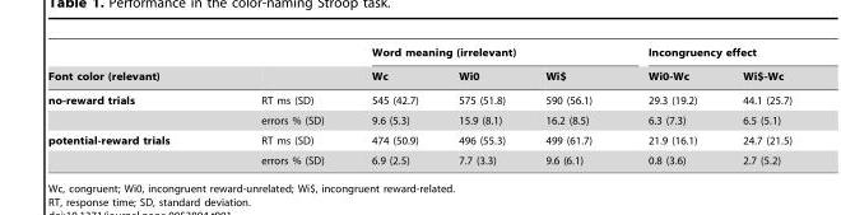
<table><thead><tr><td rowspan="2">Font color (relevant)</td><td rowspan="2"></td><td colspan="3">Word meaning (irrelevant)</td><td colspan="2">Incongruency effect</td></tr><tr><td>Wc</td><td>Wi0</td><td>Wi$</td><td>Wi0-Wc</td><td>Wi$-Wc</td></tr></thead><tbody><tr><td rowspan="2">no-reward trials</td><td>RT ms (SD)</td><td>545 (42.7)</td><td>575 (51.8)</td><td>590 (56.1)</td><td>29.3 (19.2)</td><td>44.1 (25.7)</td></tr><tr><td>errors % (SD)</td><td>9.6 (5.3)</td><td>15.9 (8.1)</td><td>16.2 (8.5)</td><td>6.3 (7.3)</td><td>6.5 (5.1)</td></tr><tr><td rowspan="2">potential-reward trials</td><td>RT ms (SD)</td><td>474 (50.9)</td><td>496 (55.3)</td><td>499 (61.7)</td><td>21.9 (16.1)</td><td>24.7 (21.5)</td></tr><tr><td>errors % (SD)</td><td>6.9 (2.5)</td><td>7.7 (3.3)</td><td>9.6 (6.1)</td><td>0.8 (3.6)</td><td>2.7 (5.2)</td></tr></tbody></table>